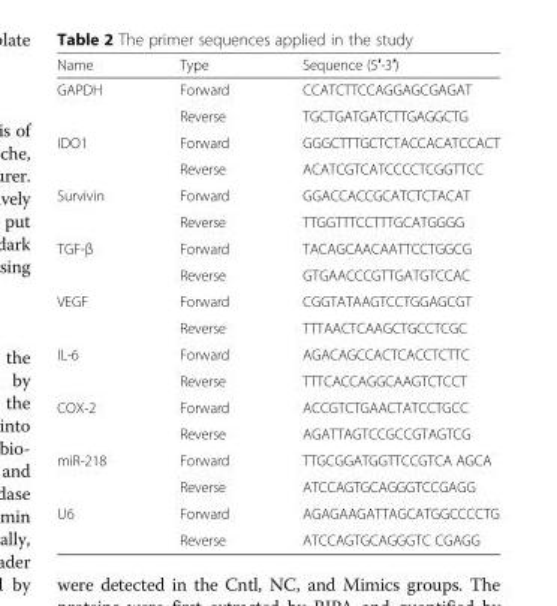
<table><thead><tr><td>Name</td><td>Type</td><td>Sequence (5′-3′)</td></tr></thead><tbody><tr><td rowspan="2">GAPDH</td><td>Forward</td><td>CCATCTTCCAGGAGCGAGAT</td></tr><tr><td>Reverse</td><td>TGCTGATGATCTTGAGGCTG</td></tr><tr><td rowspan="2">IDO1</td><td>Forward</td><td>GGGCTTTGCTCTACCACATCCACT</td></tr><tr><td>Reverse</td><td>ACATCGTCATCCCCTCGGTTCC</td></tr><tr><td rowspan="2">Survivin</td><td>Forward</td><td>GGACCACCGCATCTCTACAT</td></tr><tr><td>Reverse</td><td>TTGGTTTCCTTTGCATGGGG</td></tr><tr><td rowspan="2">TGF-β</td><td>Forward</td><td>TACAGCAACAATTCCTGGCG</td></tr><tr><td>Reverse</td><td>GTGAACCCGTTGATGTCCAC</td></tr><tr><td rowspan="2">VEGF</td><td>Forward</td><td>CGGTATAAGTCCTGGAGCGT</td></tr><tr><td>Reverse</td><td>TTTAACTCAAGCTGCCTCGC</td></tr><tr><td rowspan="2">IL-6</td><td>Forward</td><td>AGACAGCCACTCACCTCTTC</td></tr><tr><td>Reverse</td><td>TTTCACCAGGCAAGTCTCCT</td></tr><tr><td rowspan="2">COX-2</td><td>Forward</td><td>ACCGTCTGAACTATCCTGCC</td></tr><tr><td>Reverse</td><td>AGATTAGTCCGCCGTAGTCG</td></tr><tr><td rowspan="2">miR-218</td><td>Forward</td><td>TTGCGGATGGTTCCGTCA AGCA</td></tr><tr><td>Reverse</td><td>ATCCAGTGCAGGGTCCGAGG</td></tr><tr><td rowspan="2">U6</td><td>Forward</td><td>AGAGAAGATTAGCATGGCCCCTG</td></tr><tr><td>Reverse</td><td>ATCCAGTGCAGGGTC CGAGG</td></tr></tbody></table>